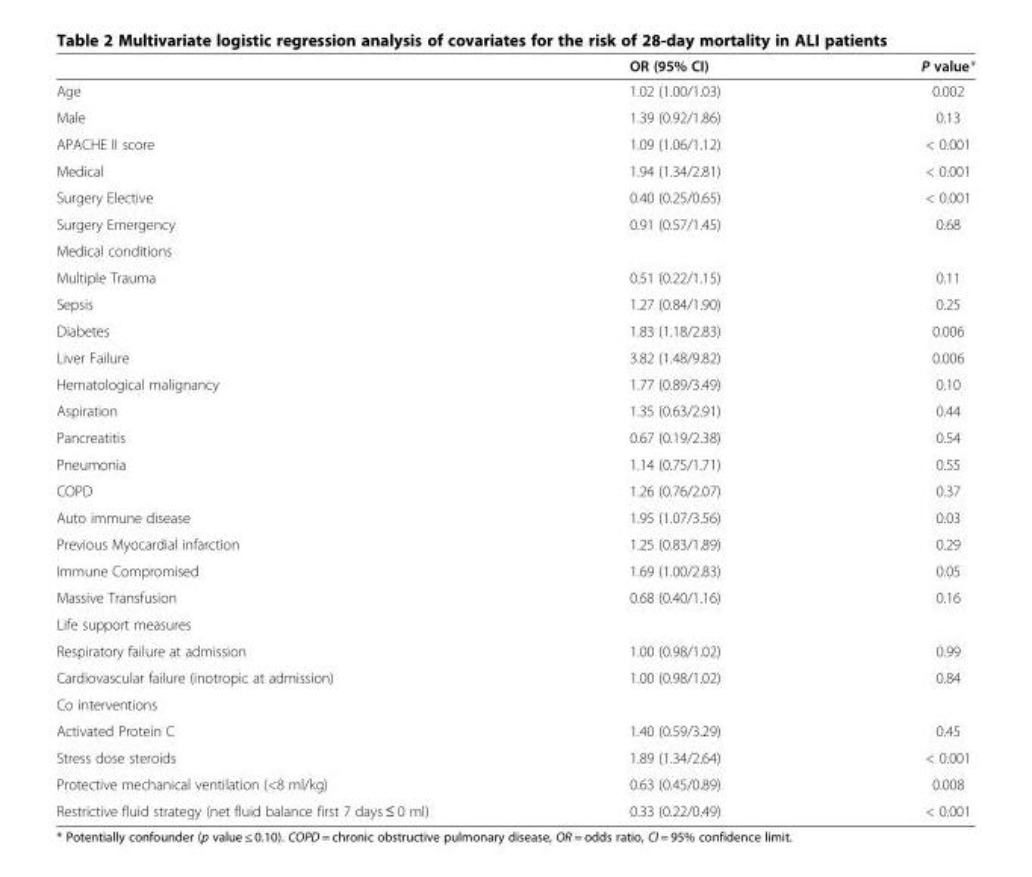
<table><thead><tr><td></td><td>OR (95% CI)</td><td>P value*</td></tr></thead><tbody><tr><td>Age</td><td>1.02 (1.00/1.03)</td><td>0.002</td></tr><tr><td>Male</td><td>1.39 (0.92/1.86)</td><td>0.13</td></tr><tr><td>APACHE II score</td><td>1.09 (1.06/1.12)</td><td>&lt; 0.001</td></tr><tr><td>Medical</td><td>1.94 (1.34/2.81)</td><td>&lt; 0.001</td></tr><tr><td>Surgery Elective</td><td>0.40 (0.25/0.65)</td><td>&lt; 0.001</td></tr><tr><td>Surgery Emergency</td><td>0.91 (0.57/1.45)</td><td>0.68</td></tr><tr><td colspan="3">Medical conditions</td></tr><tr><td>Multiple Trauma</td><td>0.51 (0.22/1.15)</td><td>0.11</td></tr><tr><td>Sepsis</td><td>1.27 (0.84/1.90)</td><td>0.25</td></tr><tr><td>Diabetes</td><td>1.83 (1.18/2.83)</td><td>0.006</td></tr><tr><td>Liver Failure</td><td>3.82 (1.48/9.82)</td><td>0.006</td></tr><tr><td>Hematological malignancy</td><td>1.77 (0.89/3.49)</td><td>0.10</td></tr><tr><td>Aspiration</td><td>1.35 (0.63/2.91)</td><td>0.44</td></tr><tr><td>Pancreatitis</td><td>0.67 (0.19/2.38)</td><td>0.54</td></tr><tr><td>Pneumonia</td><td>1.14 (0.75/1.71)</td><td>0.55</td></tr><tr><td>COPD</td><td>1.26 (0.76/2.07)</td><td>0.37</td></tr><tr><td>Auto immune disease</td><td>1.95 (1.07/3.56)</td><td>0.03</td></tr><tr><td>Previous Myocardial infarction</td><td>1.25 (0.83/1.89)</td><td>0.29</td></tr><tr><td>Immune Compromised</td><td>1.69 (1.00/2.83)</td><td>0.05</td></tr><tr><td>Massive Transfusion</td><td>0.68 (0.40/1.16)</td><td>0.16</td></tr><tr><td colspan="3">Life support measures</td></tr><tr><td>Respiratory failure at admission</td><td>1.00 (0.98/1.02)</td><td>0.99</td></tr><tr><td>Cardiovascular failure (inotropic at admission)</td><td>1.00 (0.98/1.02)</td><td>0.84</td></tr><tr><td colspan="3">Co interventions</td></tr><tr><td>Activated Protein C</td><td>1.40 (0.59/3.29)</td><td>0.45</td></tr><tr><td>Stress dose steroids</td><td>1.89 (1.34/2.64)</td><td>&lt; 0.001</td></tr><tr><td>Protective mechanical ventilation (&lt;8 ml/kg)</td><td>0.63 (0.45/0.89)</td><td>0.008</td></tr><tr><td>Restrictive fluid strategy (net fluid balance first 7 days ≤ 0 ml)</td><td>0.33 (0.22/0.49)</td><td>&lt; 0.001</td></tr></tbody></table>